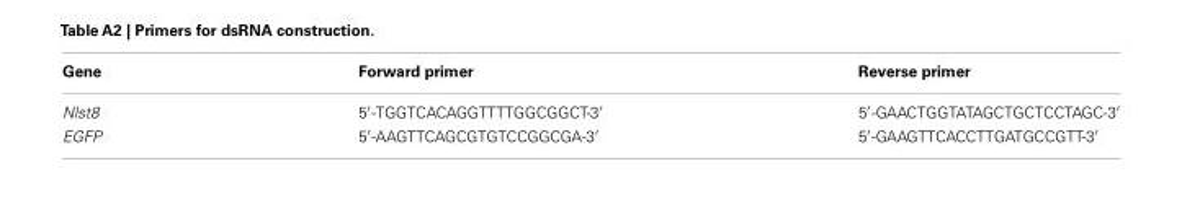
<table><thead><tr><td>Gene</td><td>Forward primer</td><td>Reverse primer</td></tr></thead><tbody><tr><td>Nlst8</td><td>5′-TGGTCACAGGTTTTGGCGGCT-3′</td><td>5′-GAACTGGTATAGCTGCTCCTAGC-3′</td></tr><tr><td>EGFP</td><td>5′-AAGTTCAGCGTGTCCGGCGA-3′</td><td>5′-GAAGTTCACCTTGATGCCGTT-3′</td></tr></tbody></table>